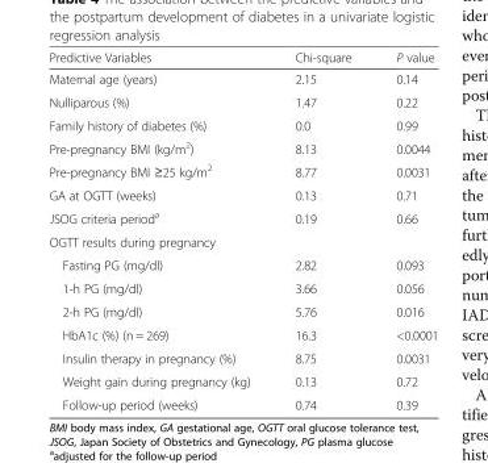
<table><thead><tr><td>Predictive Variables</td><td>Chi-square</td><td>P value</td></tr></thead><tbody><tr><td>Maternal age (years)</td><td>2.15</td><td>0.14</td></tr><tr><td>Nulliparous (%)</td><td>1.47</td><td>0.22</td></tr><tr><td>Family history of diabetes (%)</td><td>0.0</td><td>0.99</td></tr><tr><td>Pre-pregnancy BMI (kg/m<sup>2</sup>)</td><td>8.13</td><td>0.0044</td></tr><tr><td>Pre-pregnancy BMI ≥25 kg/m<sup>2</sup></td><td>8.77</td><td>0.0031</td></tr><tr><td>GA at OGTT (weeks)</td><td>0.13</td><td>0.71</td></tr><tr><td>JSOG criteria period<sup>a</sup></td><td>0.19</td><td>0.66</td></tr><tr><td colspan="3">OGTT results during pregnancy</td></tr><tr><td>Fasting PG (mg/dl)</td><td>2.82</td><td>0.093</td></tr><tr><td>1-h PG (mg/dl)</td><td>3.66</td><td>0.056</td></tr><tr><td>2-h PG (mg/dl)</td><td>5.76</td><td>0.016</td></tr><tr><td>HbA1c (%) (n = 269)</td><td>16.3</td><td>&lt;0.0001</td></tr><tr><td>Insulin therapy in pregnancy (%)</td><td>8.75</td><td>0.0031</td></tr><tr><td>Weight gain during pregnancy (kg)</td><td>0.13</td><td>0.72</td></tr><tr><td>Follow-up period (weeks)</td><td>0.74</td><td>0.39</td></tr></tbody></table>